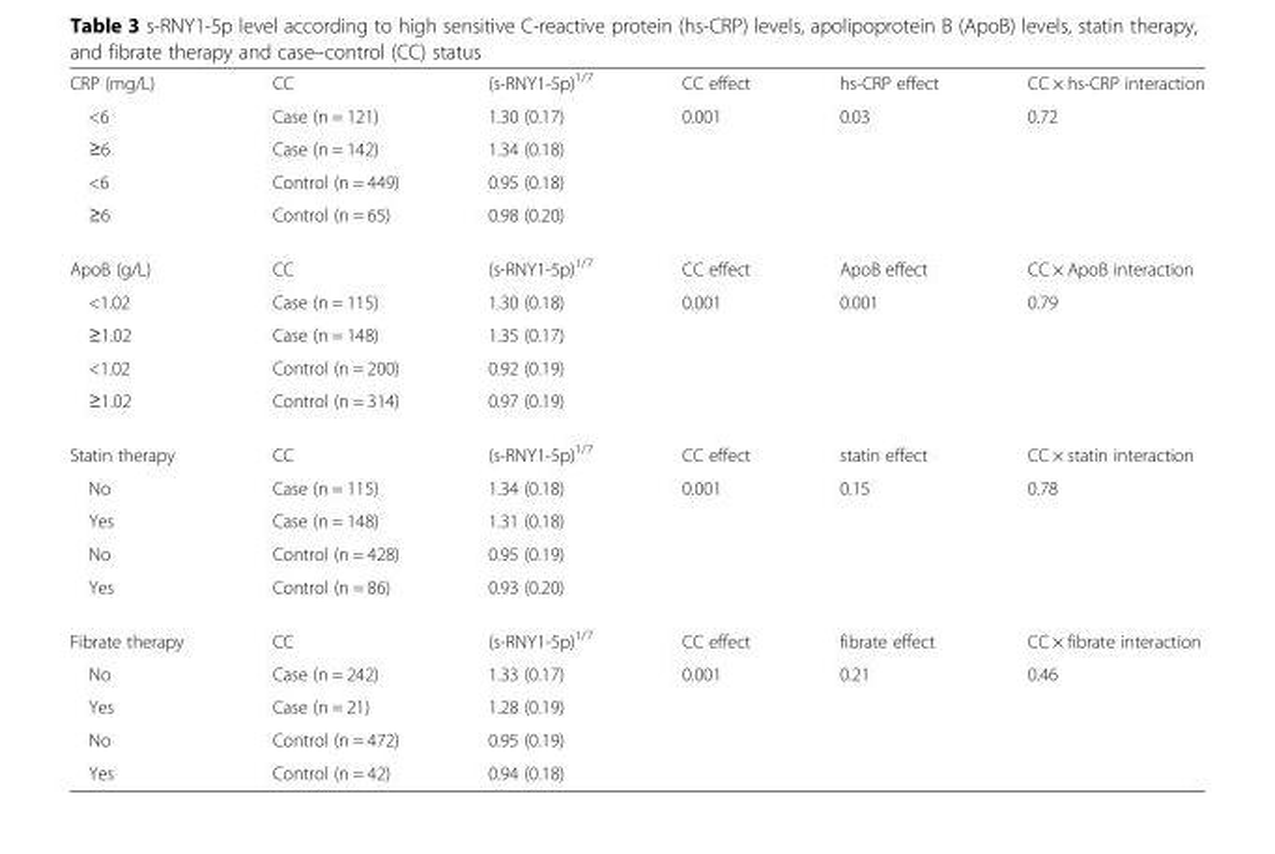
<table><tbody><tr><td>CRP (mg/L)</td><td>CC</td><td>(s-RNY1-5p)<sup>1/7</sup></td><td>CC effect</td><td>hs-CRP effect</td><td>CC × hs-CRP interaction</td></tr><tr><td>&lt;6</td><td>Case (n = 121)</td><td>1.30 (0.17)</td><td>0.001</td><td>0.03</td><td>0.72</td></tr><tr><td>≥6</td><td>Case (n = 142)</td><td>1.34 (0.18)</td><td></td><td></td><td></td></tr><tr><td>&lt;6</td><td>Control (n = 449)</td><td>0.95 (0.18)</td><td></td><td></td><td></td></tr><tr><td>≥6</td><td>Control (n = 65)</td><td>0.98 (0.20)</td><td></td><td></td><td></td></tr><tr><td>ApoB (g/L)</td><td>CC</td><td>(s-RNY1-5p)<sup>1/7</sup></td><td>CC effect</td><td>ApoB effect</td><td>CC × ApoB interaction</td></tr><tr><td>&lt;1.02</td><td>Case (n = 115)</td><td>1.30 (0.18)</td><td>0.001</td><td>0.001</td><td>0.79</td></tr><tr><td>≥1.02</td><td>Case (n = 148)</td><td>1.35 (0.17)</td><td></td><td></td><td></td></tr><tr><td>&lt;1.02</td><td>Control (n = 200)</td><td>0.92 (0.19)</td><td></td><td></td><td></td></tr><tr><td>≥1.02</td><td>Control (n = 314)</td><td>0.97 (0.19)</td><td></td><td></td><td></td></tr><tr><td>Statin therapy</td><td>CC</td><td>(s-RNY1-5p)<sup>1/7</sup></td><td>CC effect</td><td>statin effect</td><td>CC × statin interaction</td></tr><tr><td>No</td><td>Case (n = 115)</td><td>1.34 (0.18)</td><td>0.001</td><td>0.15</td><td>0.78</td></tr><tr><td>Yes</td><td>Case (n = 148)</td><td>1.31 (0.18)</td><td></td><td></td><td></td></tr><tr><td>No</td><td>Control (n = 428)</td><td>0.95 (0.19)</td><td></td><td></td><td></td></tr><tr><td>Yes</td><td>Control (n = 86)</td><td>0.93 (0.20)</td><td></td><td></td><td></td></tr><tr><td>Fibrate therapy</td><td>CC</td><td>(s-RNY1-5p)<sup>1/7</sup></td><td>CC effect</td><td>fibrate effect</td><td>CC × fibrate interaction</td></tr><tr><td>No</td><td>Case (n = 242)</td><td>1.33 (0.17)</td><td>0.001</td><td>0.21</td><td>0.46</td></tr><tr><td>Yes</td><td>Case (n = 21)</td><td>1.28 (0.19)</td><td></td><td></td><td></td></tr><tr><td>No</td><td>Control (n = 472)</td><td>0.95 (0.19)</td><td></td><td></td><td></td></tr><tr><td>Yes</td><td>Control (n = 42)</td><td>0.94 (0.18)</td><td></td><td></td><td></td></tr></tbody></table>